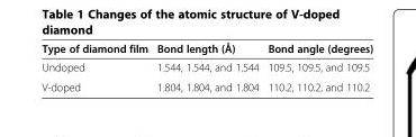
<table><thead><tr><td>Type of diamond film</td><td>Bond length (Å)</td><td>Bond angle (degrees)</td></tr></thead><tbody><tr><td>Undoped</td><td>1.544, 1.544, and 1.544</td><td>109.5, 109.5, and 109.5</td></tr><tr><td>V-doped</td><td>1.804, 1.804, and 1.804</td><td>110.2, 110.2, and 110.2</td></tr></tbody></table>